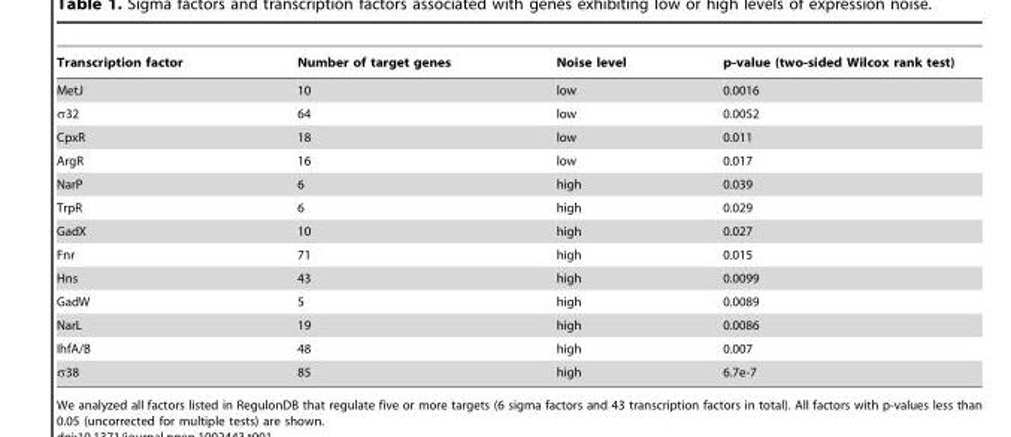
<table><thead><tr><td>Transcription factor</td><td>Number of target genes</td><td>Noise level</td><td>p-value (two-sided Wilcox rank test)</td></tr></thead><tbody><tr><td>MetJ</td><td>10</td><td>low</td><td>0.0016</td></tr><tr><td>σ32</td><td>64</td><td>low</td><td>0.0052</td></tr><tr><td>CpxR</td><td>18</td><td>low</td><td>0.011</td></tr><tr><td>ArgR</td><td>16</td><td>low</td><td>0.017</td></tr><tr><td>NarP</td><td>6</td><td>high</td><td>0.039</td></tr><tr><td>TrpR</td><td>6</td><td>high</td><td>0.029</td></tr><tr><td>GadX</td><td>10</td><td>high</td><td>0.027</td></tr><tr><td>Fnr</td><td>71</td><td>high</td><td>0.015</td></tr><tr><td>Hns</td><td>43</td><td>high</td><td>0.0099</td></tr><tr><td>GadW</td><td>5</td><td>high</td><td>0.0089</td></tr><tr><td>NarL</td><td>19</td><td>high</td><td>0.0086</td></tr><tr><td>IhfA/B</td><td>48</td><td>high</td><td>0.007</td></tr><tr><td>σ38</td><td>85</td><td>high</td><td>6.7e-7</td></tr></tbody></table>